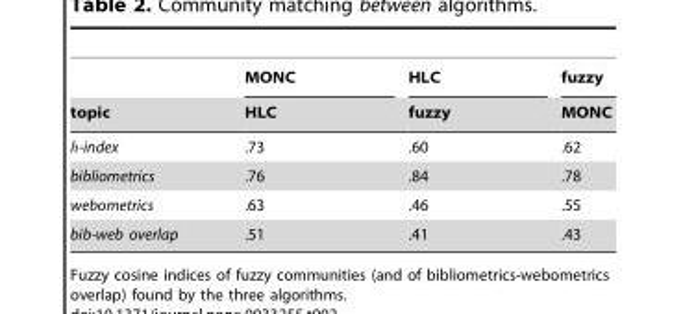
<table><thead><tr><td rowspan="2">topic</td><td rowspan="2">MONC HLC</td><td rowspan="2">HLC fuzzy</td><td rowspan="2">fuzzy MONC</td></tr><tr></tr></thead><tbody><tr><td>h-index</td><td>.73</td><td>.60</td><td>.62</td></tr><tr><td>bibliometrics</td><td>.76</td><td>.84</td><td>.78</td></tr><tr><td>webometrics</td><td>.63</td><td>.46</td><td>.55</td></tr><tr><td>bib-web overlap</td><td>.51</td><td>.41</td><td>.43</td></tr></tbody></table>